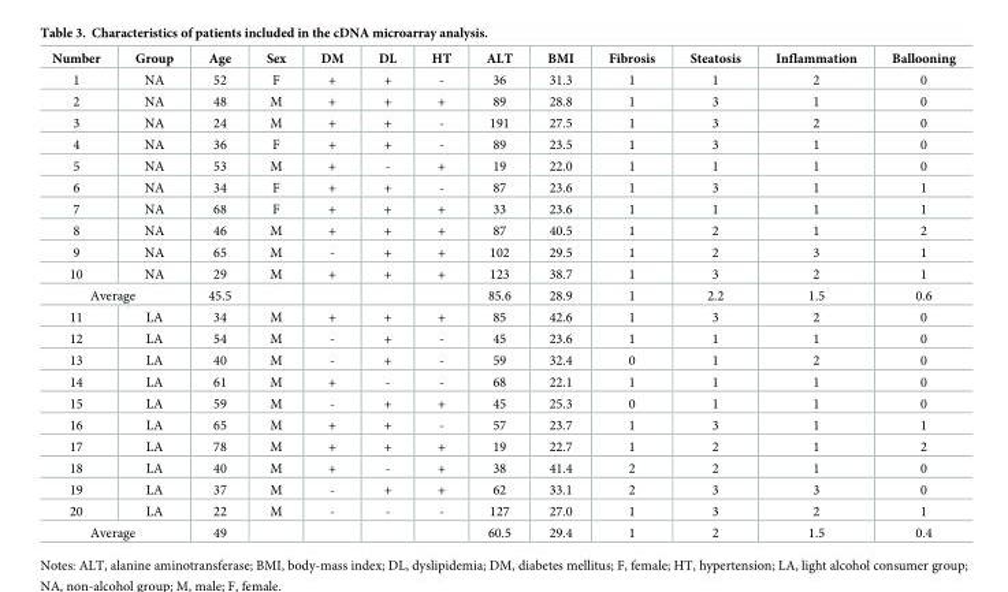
<table><thead><tr><td>Number</td><td>Group</td><td>Age</td><td>Sex</td><td>DM</td><td>DL</td><td>HT</td><td>ALT</td><td>BMI</td><td>Fibrosis</td><td>Steatosis</td><td>Inflammation</td><td>Ballooning</td></tr></thead><tbody><tr><td>1</td><td>NA</td><td>52</td><td>F</td><td>+</td><td>+</td><td>-</td><td>36</td><td>31.3</td><td>1</td><td>1</td><td>2</td><td>0</td></tr><tr><td>2</td><td>NA</td><td>48</td><td>M</td><td>+</td><td>+</td><td>+</td><td>89</td><td>28.8</td><td>1</td><td>3</td><td>1</td><td>0</td></tr><tr><td>3</td><td>NA</td><td>24</td><td>M</td><td>+</td><td>+</td><td>-</td><td>191</td><td>27.5</td><td>1</td><td>3</td><td>2</td><td>0</td></tr><tr><td>4</td><td>NA</td><td>36</td><td>F</td><td>+</td><td>+</td><td>-</td><td>89</td><td>23.5</td><td>1</td><td>3</td><td>1</td><td>0</td></tr><tr><td>5</td><td>NA</td><td>53</td><td>M</td><td>+</td><td>-</td><td>+</td><td>19</td><td>22.0</td><td>1</td><td>1</td><td>1</td><td>0</td></tr><tr><td>6</td><td>NA</td><td>34</td><td>F</td><td>+</td><td>+</td><td>-</td><td>87</td><td>23.6</td><td>1</td><td>3</td><td>1</td><td>1</td></tr><tr><td>7</td><td>NA</td><td>68</td><td>F</td><td>+</td><td>+</td><td>+</td><td>33</td><td>23.6</td><td>1</td><td>1</td><td>1</td><td>1</td></tr><tr><td>8</td><td>NA</td><td>46</td><td>M</td><td>+</td><td>+</td><td>+</td><td>87</td><td>40.5</td><td>1</td><td>2</td><td>1</td><td>2</td></tr><tr><td>9</td><td>NA</td><td>65</td><td>M</td><td>-</td><td>+</td><td>+</td><td>102</td><td>29.5</td><td>1</td><td>2</td><td>3</td><td>1</td></tr><tr><td>10</td><td>NA</td><td>29</td><td>M</td><td>+</td><td>+</td><td>+</td><td>123</td><td>38.7</td><td>1</td><td>3</td><td>2</td><td>1</td></tr><tr><td colspan="2">Average</td><td>45.5</td><td></td><td></td><td></td><td></td><td>85.6</td><td>28.9</td><td>1</td><td>2.2</td><td>1.5</td><td>0.6</td></tr><tr><td>11</td><td>LA</td><td>34</td><td>M</td><td>+</td><td>+</td><td>+</td><td>85</td><td>42.6</td><td>1</td><td>3</td><td>2</td><td>0</td></tr><tr><td>12</td><td>LA</td><td>54</td><td>M</td><td>-</td><td>+</td><td>-</td><td>45</td><td>23.6</td><td>1</td><td>1</td><td>1</td><td>0</td></tr><tr><td>13</td><td>LA</td><td>40</td><td>M</td><td>-</td><td>+</td><td>-</td><td>59</td><td>32.4</td><td>0</td><td>1</td><td>2</td><td>0</td></tr><tr><td>14</td><td>LA</td><td>61</td><td>M</td><td>+</td><td>-</td><td>-</td><td>68</td><td>22.1</td><td>1</td><td>1</td><td>1</td><td>0</td></tr><tr><td>15</td><td>LA</td><td>59</td><td>M</td><td>-</td><td>+</td><td>+</td><td>45</td><td>25.3</td><td>0</td><td>1</td><td>1</td><td>0</td></tr><tr><td>16</td><td>LA</td><td>65</td><td>M</td><td>+</td><td>+</td><td>-</td><td>57</td><td>23.7</td><td>1</td><td>3</td><td>1</td><td>1</td></tr><tr><td>17</td><td>LA</td><td>78</td><td>M</td><td>+</td><td>+</td><td>+</td><td>19</td><td>22.7</td><td>1</td><td>2</td><td>1</td><td>2</td></tr><tr><td>18</td><td>LA</td><td>40</td><td>M</td><td>+</td><td>-</td><td>+</td><td>38</td><td>41.4</td><td>2</td><td>2</td><td>1</td><td>0</td></tr><tr><td>19</td><td>LA</td><td>37</td><td>M</td><td>-</td><td>+</td><td>+</td><td>62</td><td>33.1</td><td>2</td><td>3</td><td>3</td><td>0</td></tr><tr><td>20</td><td>LA</td><td>22</td><td>M</td><td>-</td><td>-</td><td>-</td><td>127</td><td>27.0</td><td>1</td><td>3</td><td>2</td><td>1</td></tr><tr><td colspan="2">Average</td><td>49</td><td></td><td></td><td></td><td></td><td>60.5</td><td>29.4</td><td>1</td><td>2</td><td>1.5</td><td>0.4</td></tr></tbody></table>